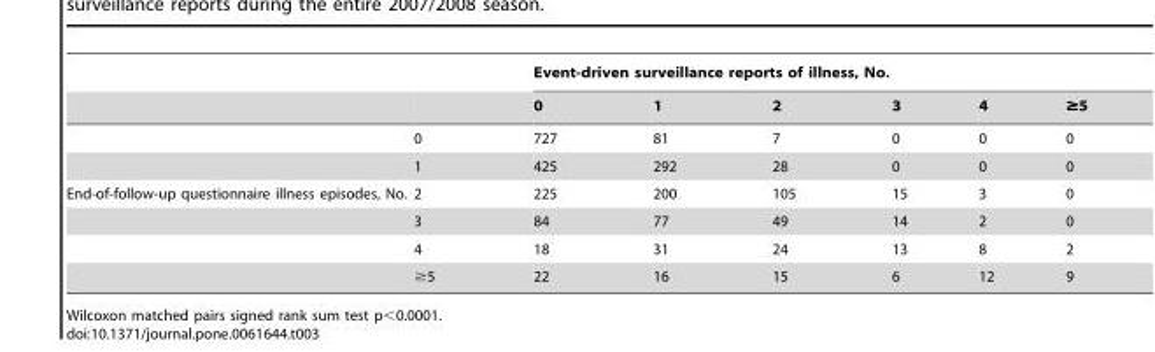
<table><thead><tr><td rowspan="2"></td><td rowspan="2"></td><td colspan="6">Event-driven surveillance reports of illness, No.</td></tr><tr><td>0</td><td>1</td><td>2</td><td>3</td><td>4</td><td>≥5</td></tr></thead><tbody><tr><td></td><td>0</td><td>727</td><td>81</td><td>7</td><td>0</td><td>0</td><td>0</td></tr><tr><td></td><td>1</td><td>425</td><td>292</td><td>28</td><td>0</td><td>0</td><td>0</td></tr><tr><td rowspan="4">End-of-follow-up questionnaire illness episodes, No.</td><td>2</td><td>225</td><td>200</td><td>105</td><td>15</td><td>3</td><td>0</td></tr><tr><td>3</td><td>84</td><td>77</td><td>49</td><td>14</td><td>2</td><td>0</td></tr><tr><td>4</td><td>18</td><td>31</td><td>24</td><td>13</td><td>8</td><td>2</td></tr><tr><td>≥5</td><td>22</td><td>16</td><td>15</td><td>6</td><td>12</td><td>9</td></tr></tbody></table>